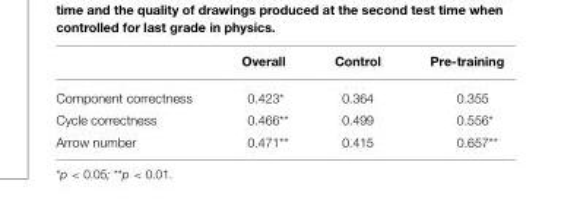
<table><thead><tr><td></td><td>Overall</td><td>Control</td><td>Pre-training</td></tr></thead><tbody><tr><td>Component correctness</td><td>0.423*</td><td>0.364</td><td>0.355</td></tr><tr><td>Cycle correctness</td><td>0.466**</td><td>0.499</td><td>0.556*</td></tr><tr><td>Arrow number</td><td>0.471**</td><td>0.415</td><td>0.657**</td></tr></tbody></table>